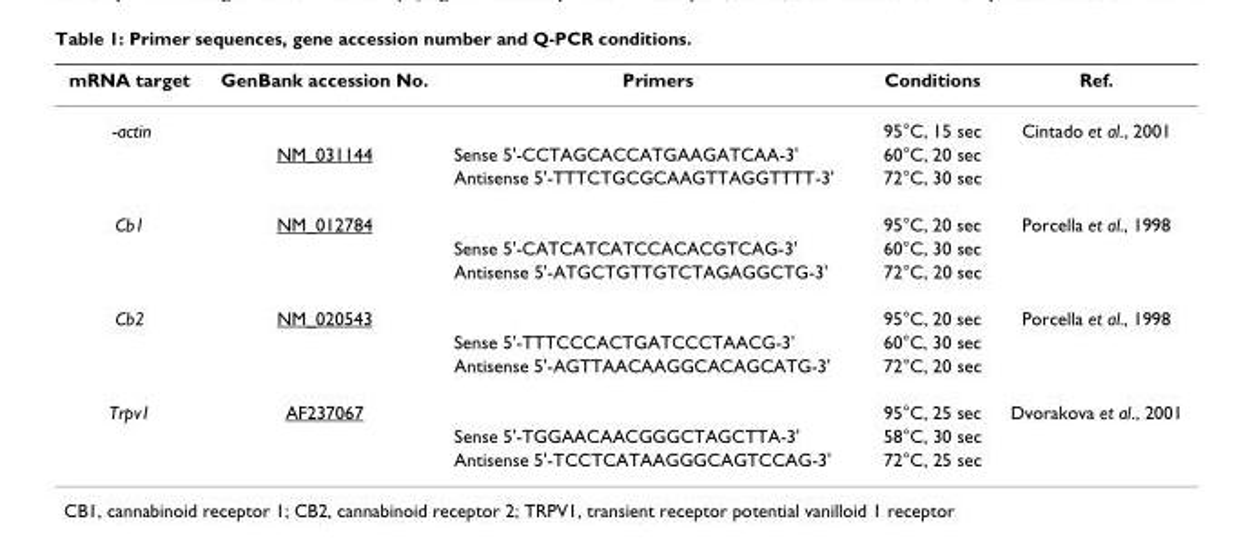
<table><thead><tr><td>mRNA target</td><td>GenBank accession No.</td><td>Primers</td><td>Conditions</td><td>Ref.</td></tr></thead><tbody><tr><td rowspan="3">-actin</td><td></td><td></td><td>95°C, 15 sec</td><td>Cintado et al., 2001</td></tr><tr><td>NM_031144</td><td>Sense 5&#x27;-CCTAGCACCATGAAGATCAA-3&#x27;</td><td>60°C, 20 sec</td><td></td></tr><tr><td></td><td>Antisense 5&#x27;-TTTCTGCGCAAGTTAGGTTTT-3&#x27;</td><td>72°C, 30 sec</td><td></td></tr><tr><td rowspan="3">Cb1</td><td>NM_012784</td><td></td><td>95°C, 20 sec</td><td>Porcella et al., 1998</td></tr><tr><td></td><td>Sense 5&#x27;-CATCATCATCCACACGTCAG-3&#x27;</td><td>60°C, 30 sec</td><td></td></tr><tr><td></td><td>Antisense 5&#x27;-ATGCTGTTGTCTAGAGGCTG-3&#x27;</td><td>72°C, 20 sec</td><td></td></tr><tr><td rowspan="3">Cb2</td><td>NM_020543</td><td></td><td>95°C, 20 sec</td><td>Porcella et al., 1998</td></tr><tr><td></td><td>Sense 5&#x27;-TTTCCCACTGATCCCTAACG-3&#x27;</td><td>60°C, 30 sec</td><td></td></tr><tr><td></td><td>Antisense 5&#x27;-AGTTAACAAGGCACAGCATG-3&#x27;</td><td>72°C, 20 sec</td><td></td></tr><tr><td rowspan="3">Trpv1</td><td>AF237067</td><td></td><td>95°C, 25 sec</td><td>Dvorakova et al., 2001</td></tr><tr><td></td><td>Sense 5&#x27;-TGGAACAACGGGCTAGCTTA-3&#x27;</td><td>58°C, 30 sec</td><td></td></tr><tr><td></td><td>Antisense 5&#x27;-TCCTCATAAGGGCAGTCCAG-3&#x27;</td><td>72°C, 25 sec</td><td></td></tr></tbody></table>